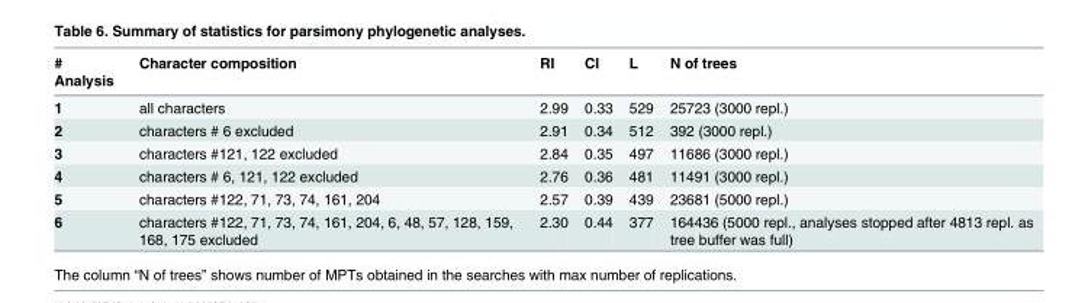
<table><thead><tr><td># Analysis</td><td>Character composition</td><td>RI</td><td>CI</td><td>L</td><td>N of trees</td></tr></thead><tbody><tr><td>1</td><td>all characters</td><td>2.99</td><td>0.33</td><td>529</td><td>25723 (3000 repl.)</td></tr><tr><td>2</td><td>characters # 6 excluded</td><td>2.91</td><td>0.34</td><td>512</td><td>392 (3000 repl.)</td></tr><tr><td>3</td><td>characters #121, 122 excluded</td><td>2.84</td><td>0.35</td><td>497</td><td>11686 (3000 repl.)</td></tr><tr><td>4</td><td>characters # 6, 121, 122 excluded</td><td>2.76</td><td>0.36</td><td>481</td><td>11491 (3000 repl.)</td></tr><tr><td>5</td><td>characters #122, 71, 73, 74, 161, 204</td><td>2.57</td><td>0.39</td><td>439</td><td>23681 (5000 repl.)</td></tr><tr><td>6</td><td>characters #122, 71, 73, 74, 161, 204, 6, 48, 57, 128, 159, 168, 175 excluded</td><td>2.30</td><td>0.44</td><td>377</td><td>164436 (5000 repl., analyses stopped after 4813 repl. as tree buffer was full)</td></tr></tbody></table>